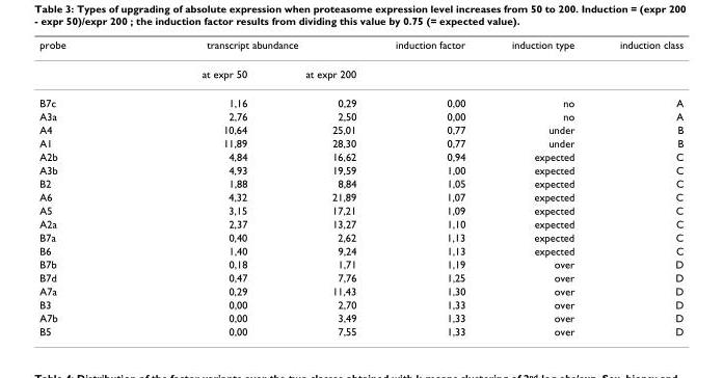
<table><thead><tr><td rowspan="2">probe</td><td colspan="2">transcript abundance</td><td rowspan="2">induction factor</td><td rowspan="2">induction type</td><td rowspan="2">induction class</td></tr><tr><td>at expr 50</td><td>at expr 200</td></tr></thead><tbody><tr><td>B7c</td><td>1,16</td><td>0,29</td><td>0,00</td><td>no</td><td>A</td></tr><tr><td>A3a</td><td>2,76</td><td>2,50</td><td>0,00</td><td>no</td><td>A</td></tr><tr><td>A4</td><td>10,64</td><td>25,01</td><td>0,77</td><td>under</td><td>B</td></tr><tr><td>A1</td><td>11,89</td><td>28,30</td><td>0,77</td><td>under</td><td>B</td></tr><tr><td>A2b</td><td>4,84</td><td>16,62</td><td>0,94</td><td>expected</td><td>C</td></tr><tr><td>A3b</td><td>4,93</td><td>19,59</td><td>1,00</td><td>expected</td><td>C</td></tr><tr><td>B2</td><td>1,88</td><td>8,84</td><td>1,05</td><td>expected</td><td>C</td></tr><tr><td>A6</td><td>4,32</td><td>21,89</td><td>1,07</td><td>expected</td><td>C</td></tr><tr><td>A5</td><td>3,15</td><td>17,21</td><td>1,09</td><td>expected</td><td>C</td></tr><tr><td>A2a</td><td>2,37</td><td>13,27</td><td>1,10</td><td>expected</td><td>C</td></tr><tr><td>B7a</td><td>0,40</td><td>2,62</td><td>1,13</td><td>expected</td><td>C</td></tr><tr><td>B6</td><td>1,40</td><td>9,24</td><td>1,13</td><td>expected</td><td>C</td></tr><tr><td>B7b</td><td>0,18</td><td>1,71</td><td>1,19</td><td>over</td><td>D</td></tr><tr><td>B7d</td><td>0,47</td><td>7,76</td><td>1,25</td><td>over</td><td>D</td></tr><tr><td>A7a</td><td>0,29</td><td>11,43</td><td>1,30</td><td>over</td><td>D</td></tr><tr><td>B3</td><td>0,00</td><td>2,70</td><td>1,33</td><td>over</td><td>D</td></tr><tr><td>A7b</td><td>0,00</td><td>3,49</td><td>1,33</td><td>over</td><td>D</td></tr><tr><td>B5</td><td>0,00</td><td>7,55</td><td>1,33</td><td>over</td><td>D</td></tr></tbody></table>